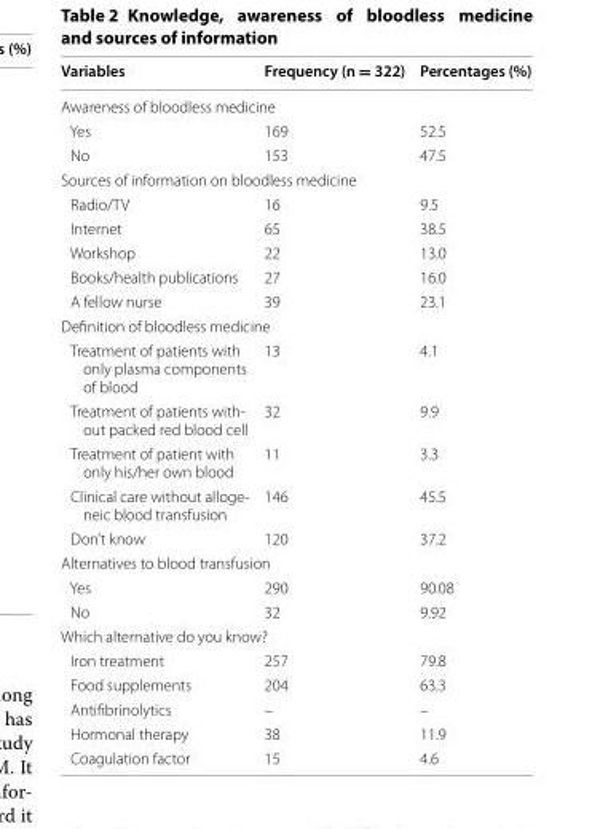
<table><thead><tr><td>Variables</td><td>Frequency (n = 322)</td><td>Percentages (%)</td></tr></thead><tbody><tr><td colspan="3">Awareness of bloodless medicine</td></tr><tr><td>Yes</td><td>169</td><td>52.5</td></tr><tr><td>No</td><td>153</td><td>47.5</td></tr><tr><td colspan="3">Sources of information on bloodless medicine</td></tr><tr><td>Radio/TV</td><td>16</td><td>9.5</td></tr><tr><td>Internet</td><td>65</td><td>38.5</td></tr><tr><td>Workshop</td><td>22</td><td>13.0</td></tr><tr><td>Books/health publications</td><td>27</td><td>16.0</td></tr><tr><td>A fellow nurse</td><td>39</td><td>23.1</td></tr><tr><td colspan="3">Definition of bloodless medicine</td></tr><tr><td>Treatment of patients with only plasma components of blood</td><td>13</td><td>4.1</td></tr><tr><td>Treatment of patients with- out packed red blood cell</td><td>32</td><td>9.9</td></tr><tr><td>Treatment of patient with only his/her own blood</td><td>11</td><td>3.3</td></tr><tr><td>Clinical care without alloge- neic blood transfusion</td><td>146</td><td>45.5</td></tr><tr><td>Don’t know</td><td>120</td><td>37.2</td></tr><tr><td colspan="3">Alternatives to blood transfusion</td></tr><tr><td>Yes</td><td>290</td><td>90.08</td></tr><tr><td>No</td><td>32</td><td>9.92</td></tr><tr><td colspan="3">Which alternative do you know?</td></tr><tr><td>Iron treatment</td><td>257</td><td>79.8</td></tr><tr><td>Food supplements</td><td>204</td><td>63.3</td></tr><tr><td>Antifibrinolytics</td><td>–</td><td>–</td></tr><tr><td>Hormonal therapy</td><td>38</td><td>11.9</td></tr><tr><td>Coagulation factor</td><td>15</td><td>4.6</td></tr></tbody></table>